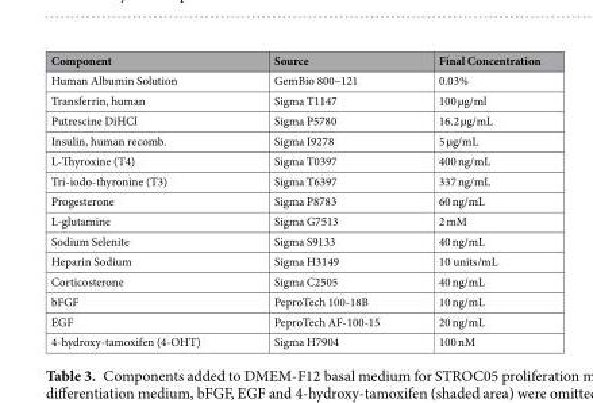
<table><thead><tr><td>Component</td><td>Source</td><td>Final Concentration</td></tr></thead><tbody><tr><td>Human Albumin Solution</td><td>GemBio 800–121</td><td>0.03%</td></tr><tr><td>Transferrin, human</td><td>Sigma T1147</td><td>100 µg/ml</td></tr><tr><td>Putrescine DiHCl</td><td>Sigma P5780</td><td>16.2 µg/mL</td></tr><tr><td>Insulin, human recomb.</td><td>Sigma I9278</td><td>5 µg/mL</td></tr><tr><td>L-Thyroxine (T4)</td><td>Sigma T0397</td><td>400 ng/mL</td></tr><tr><td>Tri-iodo-thyronine (T3)</td><td>Sigma T6397</td><td>337 ng/mL</td></tr><tr><td>Progesterone</td><td>Sigma P8783</td><td>60 ng/mL</td></tr><tr><td>L-glutamine</td><td>Sigma G7513</td><td>2 mM</td></tr><tr><td>Sodium Selenite</td><td>Sigma S9133</td><td>40 ng/mL</td></tr><tr><td>Heparin Sodium</td><td>Sigma H3149</td><td>10 units/mL</td></tr><tr><td>Corticosterone</td><td>Sigma C2505</td><td>40 ng/mL</td></tr><tr><td>bFGF</td><td>PeproTech 100-18B</td><td>10 ng/mL</td></tr><tr><td>EGF</td><td>PeproTech AF-100-15</td><td>20 ng/mL</td></tr><tr><td>4-hydroxy-tamoxifen (4-OHT)</td><td>Sigma H7904</td><td>100 nM</td></tr></tbody></table>